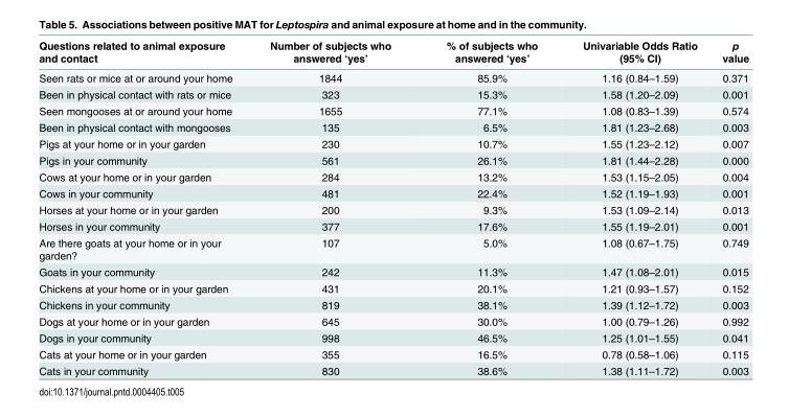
<table><thead><tr><td>Questions related to animal exposure and contact</td><td>Number of subjects who answered ‘yes’</td><td>% of subjects who answered ‘yes’</td><td>Univariable Odds Ratio (95% CI)</td><td>p value</td></tr></thead><tbody><tr><td>Seen rats or mice at or around your home</td><td>1844</td><td>85.9%</td><td>1.16 (0.84–1.59)</td><td>0.371</td></tr><tr><td>Been in physical contact with rats or mice</td><td>323</td><td>15.3%</td><td>1.58 (1.20–2.09)</td><td>0.001</td></tr><tr><td>Seen mongooses at or around your home</td><td>1655</td><td>77.1%</td><td>1.08 (0.83–1.39)</td><td>0.574</td></tr><tr><td>Been in physical contact with mongooses</td><td>135</td><td>6.5%</td><td>1.81 (1.23–2.68)</td><td>0.003</td></tr><tr><td>Pigs at your home or in your garden</td><td>230</td><td>10.7%</td><td>1.55 (1.23–2.12)</td><td>0.007</td></tr><tr><td>Pigs in your community</td><td>561</td><td>26.1%</td><td>1.81 (1.44–2.28)</td><td>0.000</td></tr><tr><td>Cows at your home or in your garden</td><td>284</td><td>13.2%</td><td>1.53 (1.15–2.05)</td><td>0.004</td></tr><tr><td>Cows in your community</td><td>481</td><td>22.4%</td><td>1.52 (1.19–1.93)</td><td>0.001</td></tr><tr><td>Horses at your home or in your garden</td><td>200</td><td>9.3%</td><td>1.53 (1.09–2.14)</td><td>0.013</td></tr><tr><td>Horses in your community</td><td>377</td><td>17.6%</td><td>1.55 (1.19–2.01)</td><td>0.001</td></tr><tr><td>Are there goats at your home or in your garden?</td><td>107</td><td>5.0%</td><td>1.08 (0.67–1.75)</td><td>0.749</td></tr><tr><td>Goats in your community</td><td>242</td><td>11.3%</td><td>1.47 (1.08–2.01)</td><td>0.015</td></tr><tr><td>Chickens at your home or in your garden</td><td>431</td><td>20.1%</td><td>1.21 (0.93–1.57)</td><td>0.152</td></tr><tr><td>Chickens in your community</td><td>819</td><td>38.1%</td><td>1.39 (1.12–1.72)</td><td>0.003</td></tr><tr><td>Dogs at your home or in your garden</td><td>645</td><td>30.0%</td><td>1.00 (0.79–1.26)</td><td>0.992</td></tr><tr><td>Dogs in your community</td><td>998</td><td>46.5%</td><td>1.25 (1.01–1.55)</td><td>0.041</td></tr><tr><td>Cats at your home or in your garden</td><td>355</td><td>16.5%</td><td>0.78 (0.58–1.06)</td><td>0.115</td></tr><tr><td>Cats in your community</td><td>830</td><td>38.6%</td><td>1.38 (1.11–1.72)</td><td>0.003</td></tr></tbody></table>